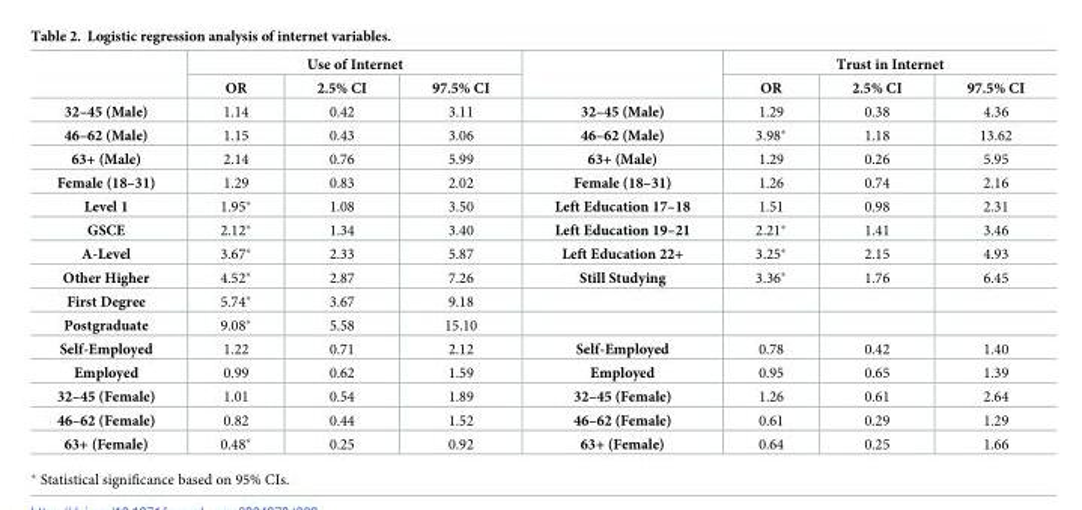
<table><thead><tr><td rowspan="2"></td><td colspan="3">Use of Internet</td><td rowspan="2"></td><td colspan="3">Trust in Internet</td></tr><tr><td>OR</td><td>2.5% CI</td><td>97.5% CI</td><td>OR</td><td>2.5% CI</td><td>97.5% CI</td></tr></thead><tbody><tr><td>32–45 (Male)</td><td>1.14</td><td>0.42</td><td>3.11</td><td>32–45 (Male)</td><td>1.29</td><td>0.38</td><td>4.36</td></tr><tr><td>46–62 (Male)</td><td>1.15</td><td>0.43</td><td>3.06</td><td>46–62 (Male)</td><td>3.98*</td><td>1.18</td><td>13.62</td></tr><tr><td>63+ (Male)</td><td>2.14</td><td>0.76</td><td>5.99</td><td>63+ (Male)</td><td>1.29</td><td>0.26</td><td>5.95</td></tr><tr><td>Female (18–31)</td><td>1.29</td><td>0.83</td><td>2.02</td><td>Female (18–31)</td><td>1.26</td><td>0.74</td><td>2.16</td></tr><tr><td>Level 1</td><td>1.95*</td><td>1.08</td><td>3.50</td><td>Left Education 17–18</td><td>1.51</td><td>0.98</td><td>2.31</td></tr><tr><td>GSCE</td><td>2.12*</td><td>1.34</td><td>3.40</td><td>Left Education 19–21</td><td>2.21*</td><td>1.41</td><td>3.46</td></tr><tr><td>A-Level</td><td>3.67*</td><td>2.33</td><td>5.87</td><td>Left Education 22+</td><td>3.25*</td><td>2.15</td><td>4.93</td></tr><tr><td>Other Higher</td><td>4.52*</td><td>2.87</td><td>7.26</td><td>Still Studying</td><td>3.36*</td><td>1.76</td><td>6.45</td></tr><tr><td>First Degree</td><td>5.74*</td><td>3.67</td><td>9.18</td><td></td><td></td><td></td><td></td></tr><tr><td>Postgraduate</td><td>9.08*</td><td>5.58</td><td>15.10</td><td></td><td></td><td></td><td></td></tr><tr><td>Self-Employed</td><td>1.22</td><td>0.71</td><td>2.12</td><td>Self-Employed</td><td>0.78</td><td>0.42</td><td>1.40</td></tr><tr><td>Employed</td><td>0.99</td><td>0.62</td><td>1.59</td><td>Employed</td><td>0.95</td><td>0.65</td><td>1.39</td></tr><tr><td>32–45 (Female)</td><td>1.01</td><td>0.54</td><td>1.89</td><td>32–45 (Female)</td><td>1.26</td><td>0.61</td><td>2.64</td></tr><tr><td>46–62 (Female)</td><td>0.82</td><td>0.44</td><td>1.52</td><td>46–62 (Female)</td><td>0.61</td><td>0.29</td><td>1.29</td></tr><tr><td>63+ (Female)</td><td>0.48*</td><td>0.25</td><td>0.92</td><td>63+ (Female)</td><td>0.64</td><td>0.25</td><td>1.66</td></tr></tbody></table>